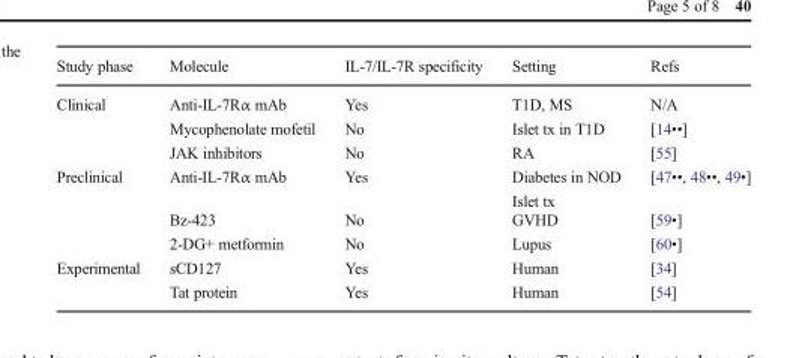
<table><thead><tr><td>Study phase</td><td>Molecule</td><td>IL-7/IL-7R specificity</td><td>Setting</td><td>Refs</td></tr></thead><tbody><tr><td rowspan="3">Clinical</td><td>Anti-IL-7Rα mAb</td><td>Yes</td><td>T1D, MS</td><td>N/A</td></tr><tr><td>Mycophenolate mofetil</td><td>No</td><td>Islet tx in T1D</td><td>[14••]</td></tr><tr><td>JAK inhibitors</td><td>No</td><td>RA</td><td>[55]</td></tr><tr><td rowspan="3">Preclinical</td><td>Anti-IL-7Rα mAb</td><td>Yes</td><td>Diabetes in NOD Islet tx</td><td>[47••, 48••, 49•]</td></tr><tr><td>Bz-423</td><td>No</td><td>GVHD</td><td>[59•]</td></tr><tr><td>2-DG+ metformin</td><td>No</td><td>Lupus</td><td>[60•]</td></tr><tr><td rowspan="2">Experimental</td><td>sCD127</td><td>Yes</td><td>Human</td><td>[34]</td></tr><tr><td>Tat protein</td><td>Yes</td><td>Human</td><td>[54]</td></tr></tbody></table>